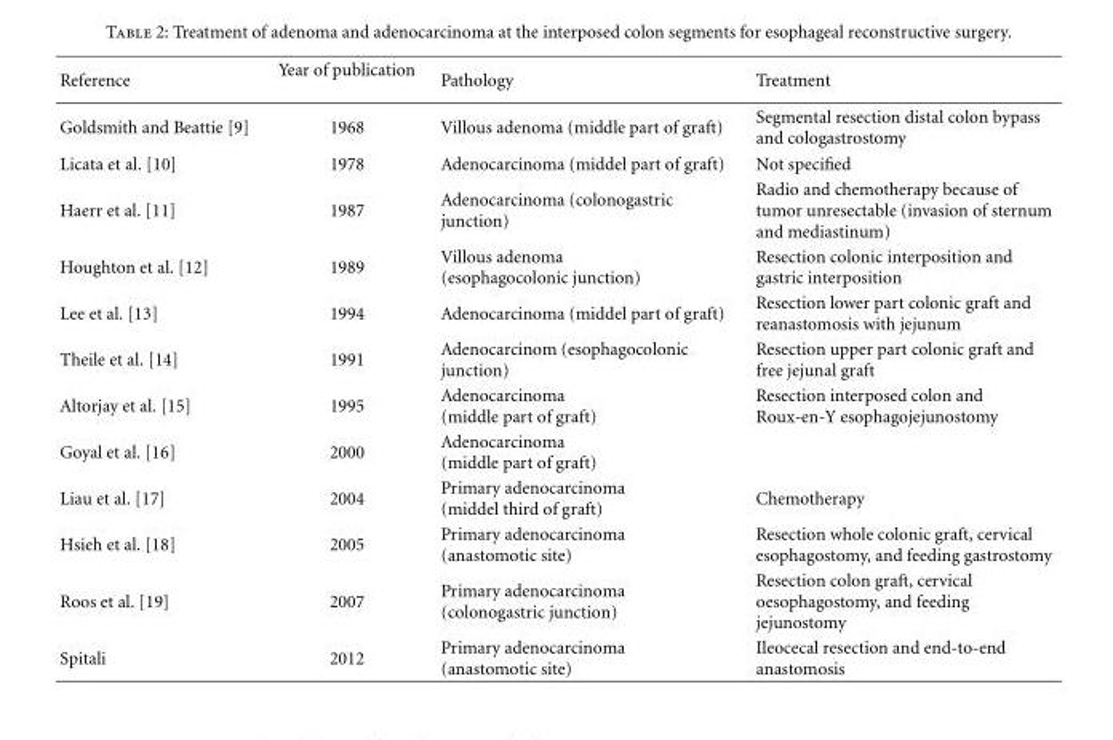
<table><thead><tr><td>Reference</td><td>Year of publication</td><td>Pathology</td><td>Treatment</td></tr></thead><tbody><tr><td>Goldsmith and Beattie [9]</td><td>1968</td><td>Villous adenoma (middle part of graft)</td><td>Segmental resection distal colon bypass and cologastrostomy</td></tr><tr><td>Licata et al. [10]</td><td>1978</td><td>Adenocarcinoma (middel part of graft)</td><td>Not specified</td></tr><tr><td>Haerr et al. [11]</td><td>1987</td><td>Adenocarcinoma (colonogastric junction)</td><td>Radio and chemotherapy because of tumor unresectable (invasion of sternum and mediastinum)</td></tr><tr><td>Houghton et al. [12]</td><td>1989</td><td>Villous adenoma (esophagocolonic junction)</td><td>Resection colonic interposition and gastric interposition</td></tr><tr><td>Lee et al. [13]</td><td>1994</td><td>Adenocarcinoma (middel part of graft)</td><td>Resection lower part colonic graft and reanastomosis with jejunum</td></tr><tr><td>Theile et al. [14]</td><td>1991</td><td>Adenocarcinom (esophagocolonic junction)</td><td>Resection upper part colonic graft and free jejunal graft</td></tr><tr><td>Altorjay et al. [15]</td><td>1995</td><td>Adenocarcinoma (middle part of graft)</td><td>Resection interposed colon and Roux-en-Y esophagojejunostomy</td></tr><tr><td>Goyal et al. [16]</td><td>2000</td><td>Adenocarcinoma (middle part of graft)</td><td></td></tr><tr><td>Liau et al. [17]</td><td>2004</td><td>Primary adenocarcinoma (middel third of graft)</td><td>Chemotherapy</td></tr><tr><td>Hsieh et al. [18]</td><td>2005</td><td>Primary adenocarcinoma (anastomotic site)</td><td>Resection whole colonic graft, cervical esophagostomy, and feeding gastrostomy</td></tr><tr><td>Roos et al. [19]</td><td>2007</td><td>Primary adenocarcinoma (colonogastric junction)</td><td>Resection colon graft, cervical oesophagostomy, and feeding jejunostomy</td></tr><tr><td>Spitali</td><td>2012</td><td>Primary adenocarcinoma (anastomotic site)</td><td>Ileocecal resection and end-to-end anastomosis</td></tr></tbody></table>